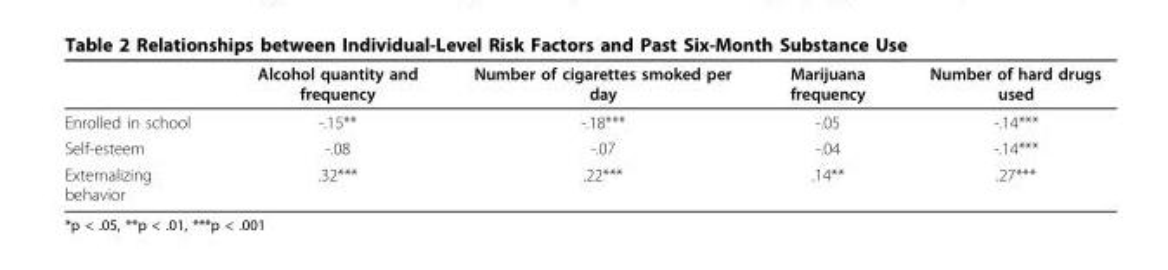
<table><thead><tr><td></td><td>Alcohol quantity and frequency</td><td>Number of cigarettes smoked per day</td><td>Marijuana frequency</td><td>Number of hard drugs used</td></tr></thead><tbody><tr><td>Enrolled in school</td><td>-.15**</td><td>-.18***</td><td>-.05</td><td>-.14***</td></tr><tr><td>Self-esteem</td><td>-.08</td><td>-.07</td><td>-.04</td><td>-.14***</td></tr><tr><td>Externalizing behavior</td><td>.32***</td><td>.22***</td><td>.14**</td><td>.27***</td></tr></tbody></table>